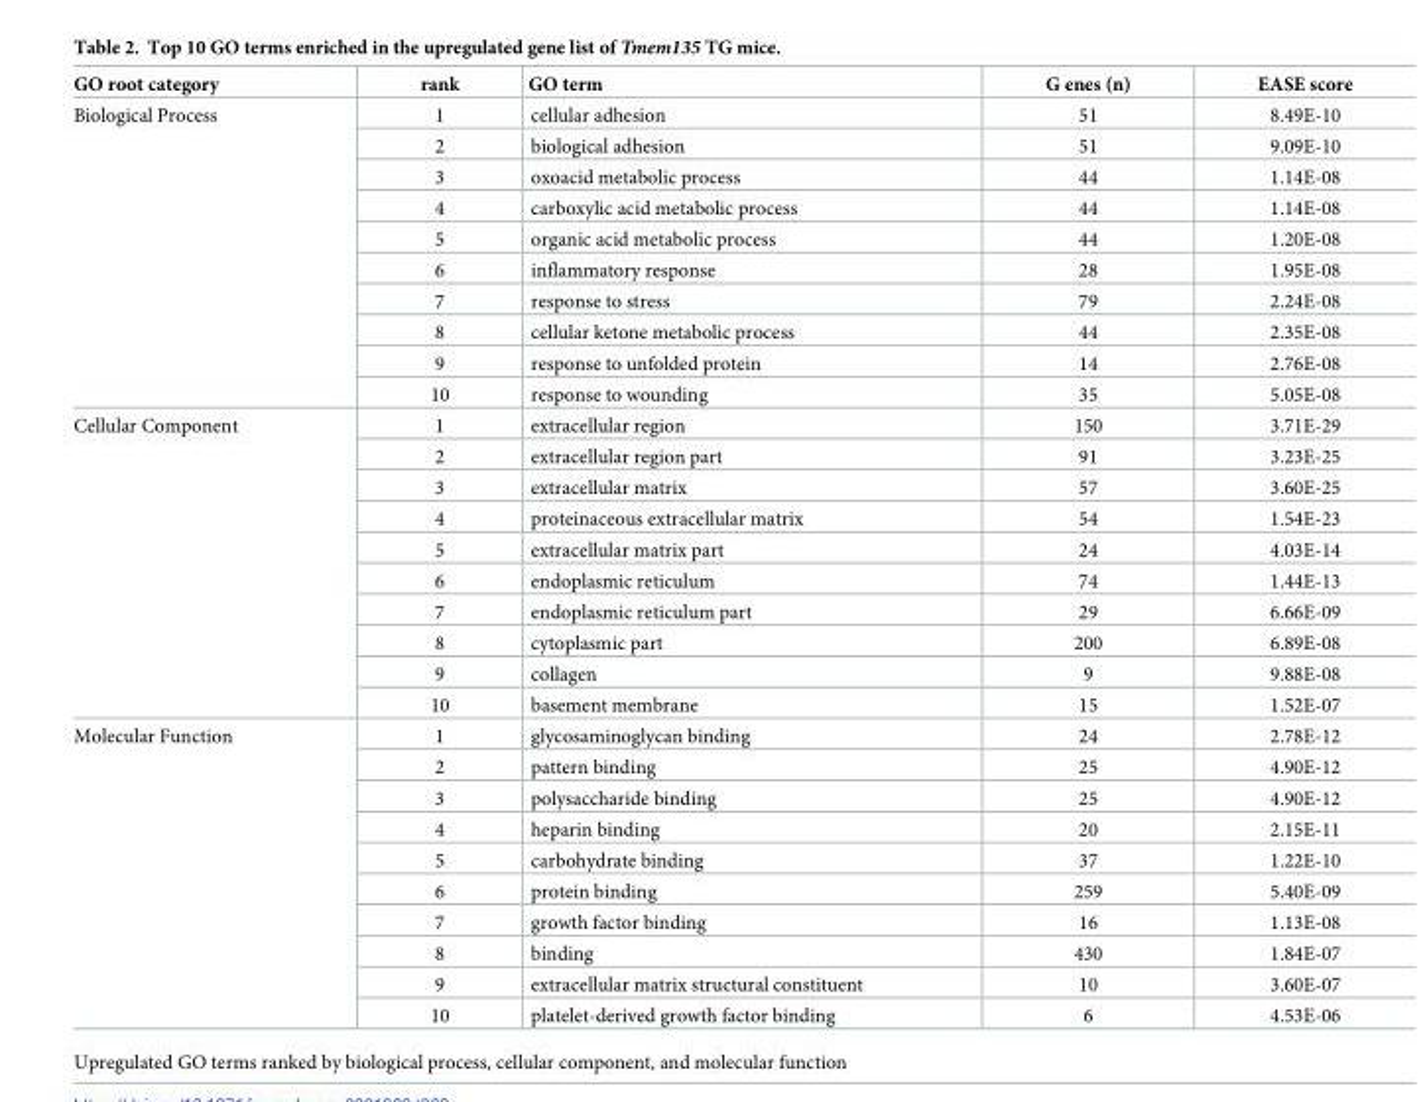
<table><thead><tr><td>GO root category</td><td>rank</td><td>GO term</td><td>G enes (n)</td><td>EASE score</td></tr></thead><tbody><tr><td rowspan="10">Biological Process</td><td>1</td><td>cellular adhesion</td><td>51</td><td>8.49E-10</td></tr><tr><td>2</td><td>biological adhesion</td><td>51</td><td>9.09E-10</td></tr><tr><td>3</td><td>oxoacid metabolic process</td><td>44</td><td>1.14E-08</td></tr><tr><td>4</td><td>carboxylic acid metabolic process</td><td>44</td><td>1.14E-08</td></tr><tr><td>5</td><td>organic acid metabolic process</td><td>44</td><td>1.20E-08</td></tr><tr><td>6</td><td>inflammatory response</td><td>28</td><td>1.95E-08</td></tr><tr><td>7</td><td>response to stress</td><td>79</td><td>2.24E-08</td></tr><tr><td>8</td><td>cellular ketone metabolic process</td><td>44</td><td>2.35E-08</td></tr><tr><td>9</td><td>response to unfolded protein</td><td>14</td><td>2.76E-08</td></tr><tr><td>10</td><td>response to wounding</td><td>35</td><td>5.05E-08</td></tr><tr><td rowspan="10">Cellular Component</td><td>1</td><td>extracellular region</td><td>150</td><td>3.71E-29</td></tr><tr><td>2</td><td>extracellular region part</td><td>91</td><td>3.23E-25</td></tr><tr><td>3</td><td>extracellular matrix</td><td>57</td><td>3.60E-25</td></tr><tr><td>4</td><td>proteinaceous extracellular matrix</td><td>54</td><td>1.54E-23</td></tr><tr><td>5</td><td>extracellular matrix part</td><td>24</td><td>4.03E-14</td></tr><tr><td>6</td><td>endoplasmic reticulum</td><td>74</td><td>1.44E-13</td></tr><tr><td>7</td><td>endoplasmic reticulum part</td><td>29</td><td>6.66E-09</td></tr><tr><td>8</td><td>cytoplasmic part</td><td>200</td><td>6.89E-08</td></tr><tr><td>9</td><td>collagen</td><td>9</td><td>9.88E-08</td></tr><tr><td>10</td><td>basement membrane</td><td>15</td><td>1.52E-07</td></tr><tr><td rowspan="10">Molecular Function</td><td>1</td><td>glycosaminoglycan binding</td><td>24</td><td>2.78E-12</td></tr><tr><td>2</td><td>pattern binding</td><td>25</td><td>4.90E-12</td></tr><tr><td>3</td><td>polysaccharide binding</td><td>25</td><td>4.90E-12</td></tr><tr><td>4</td><td>heparin binding</td><td>20</td><td>2.15E-11</td></tr><tr><td>5</td><td>carbohydrate binding</td><td>37</td><td>1.22E-10</td></tr><tr><td>6</td><td>protein binding</td><td>259</td><td>5.40E-09</td></tr><tr><td>7</td><td>growth factor binding</td><td>16</td><td>1.13E-08</td></tr><tr><td>8</td><td>binding</td><td>430</td><td>1.84E-07</td></tr><tr><td>9</td><td>extracellular matrix structural constituent</td><td>10</td><td>3.60E-07</td></tr><tr><td>10</td><td>platelet-derived growth factor binding</td><td>6</td><td>4.53E-06</td></tr></tbody></table>